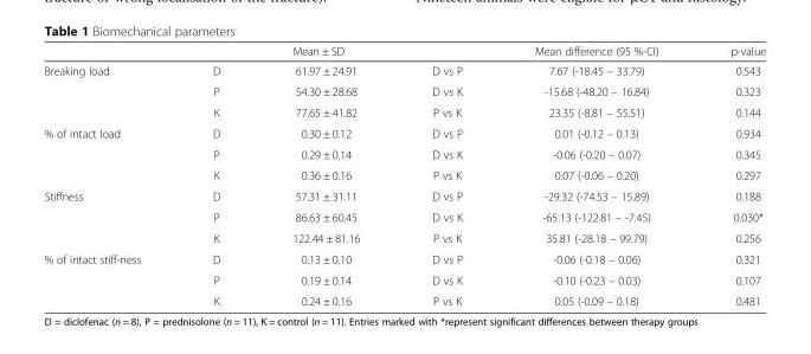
<table><thead><tr><td></td><td></td><td>Mean ± SD</td><td></td><td>Mean difference (95 %-CI)</td><td>p-value</td></tr></thead><tbody><tr><td rowspan="3">Breaking load</td><td>D</td><td>61.97 ± 24.91</td><td>D vs P</td><td>7.67 (-18.45 – 33.79)</td><td>0.543</td></tr><tr><td>P</td><td>54.30 ± 28.68</td><td>D vs K</td><td>-15.68 (-48.20 – 16.84)</td><td>0.323</td></tr><tr><td>K</td><td>77.65 ± 41.82</td><td>P vs K</td><td>23.35 (-8.81 – 55.51)</td><td>0.144</td></tr><tr><td rowspan="3">% of intact load</td><td>D</td><td>0.30 ± 0.12</td><td>D vs P</td><td>0.01 (-0.12 – 0.13)</td><td>0.934</td></tr><tr><td>P</td><td>0.29 ± 0.14</td><td>D vs K</td><td>-0.06 (-0.20 – 0.07)</td><td>0.345</td></tr><tr><td>K</td><td>0.36 ± 0.16</td><td>P vs K</td><td>0.07 (-0.06 – 0.20)</td><td>0.297</td></tr><tr><td rowspan="3">Stiffness</td><td>D</td><td>57.31 ± 31.11</td><td>D vs P</td><td>-29.32 (-74.53 – 15.89)</td><td>0.188</td></tr><tr><td>P</td><td>86.63 ± 60.45</td><td>D vs K</td><td>-65.13 (-122.81 – -7.45)</td><td>0.030*</td></tr><tr><td>K</td><td>122.44 ± 81.16</td><td>P vs K</td><td>35.81 (-28.18 – 99.79)</td><td>0.256</td></tr><tr><td rowspan="3">% of intact stiff-ness</td><td>D</td><td>0.13 ± 0.10</td><td>D vs P</td><td>-0.06 (-0.18 – 0.06)</td><td>0.321</td></tr><tr><td>P</td><td>0.19 ± 0.14</td><td>D vs K</td><td>-0.10 (-0.23 – 0.03)</td><td>0.107</td></tr><tr><td>K</td><td>0.24 ± 0.16</td><td>P vs K</td><td>0.05 (-0.09 – 0.18)</td><td>0.481</td></tr></tbody></table>